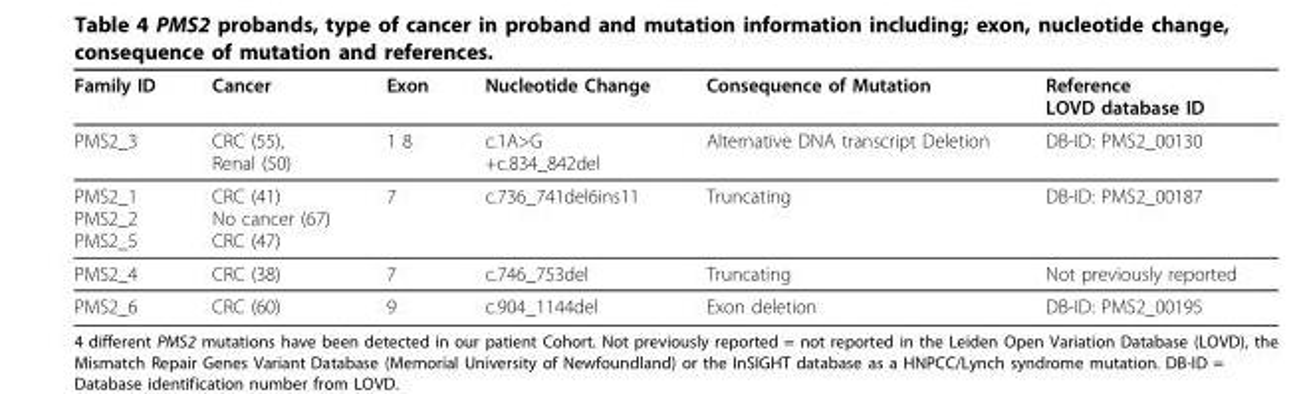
<table><thead><tr><td>Family ID</td><td>Cancer</td><td>Exon</td><td>Nucleotide Change</td><td>Consequence of Mutation</td><td>Reference LOVD database ID</td></tr></thead><tbody><tr><td>PMS2_3</td><td>CRC (55), Renal (50)</td><td>1 8</td><td>c.1A&gt;G +c.834_842del</td><td>Alternative DNA transcript Deletion</td><td>DB-ID: PMS2_00130</td></tr><tr><td>PMS2_1 PMS2_2 PMS2_5</td><td>CRC (41) No cancer (67) CRC (47)</td><td>7</td><td>c.736_741del6ins11</td><td>Truncating</td><td>DB-ID: PMS2_00187</td></tr><tr><td>PMS2_4</td><td>CRC (38)</td><td>7</td><td>c.746_753del</td><td>Truncating</td><td>Not previously reported</td></tr><tr><td>PMS2_6</td><td>CRC (60)</td><td>9</td><td>c.904_1144del</td><td>Exon deletion</td><td>DB-ID: PMS2_00195</td></tr></tbody></table>